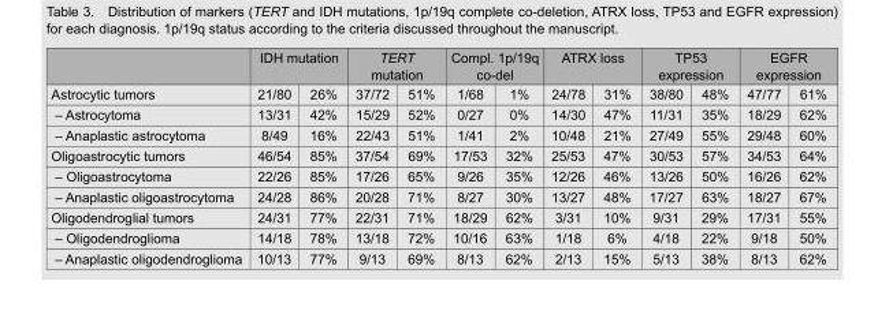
<table><thead><tr><td rowspan="2">Astrocytic tumors</td><td colspan="2">IDH mutation</td><td colspan="2">TERT mutation</td><td colspan="2">Compl. 1p/19q co-del</td><td colspan="2">ATRX loss</td><td colspan="2">TP53 expression</td><td colspan="2">EGFR expression</td></tr><tr><td>21/80</td><td>26%</td><td>37/72</td><td>51%</td><td>1/68</td><td>1%</td><td>24/78</td><td>31%</td><td>38/80</td><td>48%</td><td>47/77</td><td>61%</td></tr></thead><tbody><tr><td>– Astrocytoma</td><td>13/31</td><td>42%</td><td>15/29</td><td>52%</td><td>0/27</td><td>0%</td><td>14/30</td><td>47%</td><td>11/31</td><td>35%</td><td>18/29</td><td>62%</td></tr><tr><td>– Anaplastic astrocytoma</td><td>8/49</td><td>16%</td><td>22/43</td><td>51%</td><td>1/41</td><td>2%</td><td>10/48</td><td>21%</td><td>27/49</td><td>55%</td><td>29/48</td><td>60%</td></tr><tr><td>Oligoastrocytic tumors</td><td>46/54</td><td>85%</td><td>37/54</td><td>69%</td><td>17/53</td><td>32%</td><td>25/53</td><td>47%</td><td>30/53</td><td>57%</td><td>34/53</td><td>64%</td></tr><tr><td>– Oligoastrocytoma</td><td>22/26</td><td>85%</td><td>17/26</td><td>65%</td><td>9/26</td><td>35%</td><td>12/26</td><td>46%</td><td>13/26</td><td>50%</td><td>16/26</td><td>62%</td></tr><tr><td>– Anaplastic oligoastrocytoma</td><td>24/28</td><td>86%</td><td>20/28</td><td>71%</td><td>8/27</td><td>30%</td><td>13/27</td><td>48%</td><td>17/27</td><td>63%</td><td>18/27</td><td>67%</td></tr><tr><td>Oligodendroglial tumors</td><td>24/31</td><td>77%</td><td>22/31</td><td>71%</td><td>18/29</td><td>62%</td><td>3/31</td><td>10%</td><td>9/31</td><td>29%</td><td>17/31</td><td>55%</td></tr><tr><td>– Oligodendroglioma</td><td>14/18</td><td>78%</td><td>13/18</td><td>72%</td><td>10/16</td><td>63%</td><td>1/18</td><td>6%</td><td>4/18</td><td>22%</td><td>9/18</td><td>50%</td></tr><tr><td>– Anaplastic oligodendroglioma</td><td>10/13</td><td>77%</td><td>9/13</td><td>69%</td><td>8/13</td><td>62%</td><td>2/13</td><td>15%</td><td>5/13</td><td>38%</td><td>8/13</td><td>62%</td></tr></tbody></table>